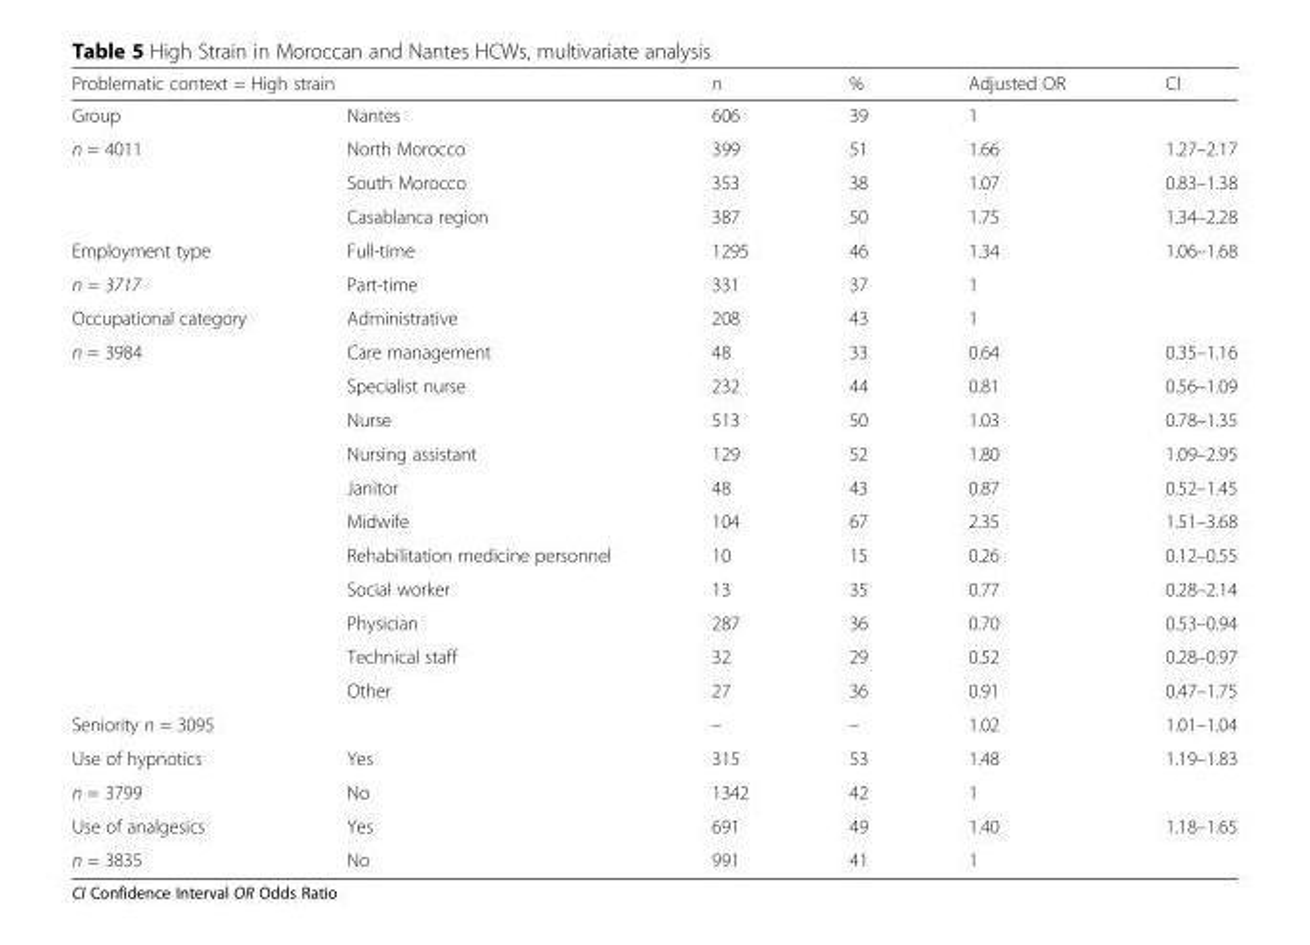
<table><thead><tr><td colspan="2">Problematic context = High strain</td><td rowspan="2">n 606</td><td rowspan="2">% 39</td><td rowspan="2">Adjusted OR 1</td><td rowspan="2">CI</td></tr><tr><td>Group</td><td>Nantes</td></tr></thead><tbody><tr><td rowspan="3">n = 4011</td><td>North Morocco</td><td>399</td><td>51</td><td>1.66</td><td>1.27–2.17</td></tr><tr><td>South Morocco</td><td>353</td><td>38</td><td>1.07</td><td>0.83–1.38</td></tr><tr><td>Casablanca region</td><td>387</td><td>50</td><td>1.75</td><td>1.34–2.28</td></tr><tr><td>Employment type</td><td>Full-time</td><td>1295</td><td>46</td><td>1.34</td><td>1.06–1.68</td></tr><tr><td>n = 3717</td><td>Part-time</td><td>331</td><td>37</td><td>1</td><td></td></tr><tr><td>Occupational category</td><td>Administrative</td><td>208</td><td>43</td><td>1</td><td></td></tr><tr><td rowspan="11">n = 3984</td><td>Care management</td><td>48</td><td>33</td><td>0.64</td><td>0.35–1.16</td></tr><tr><td>Specialist nurse</td><td>232</td><td>44</td><td>0.81</td><td>0.56–1.09</td></tr><tr><td>Nurse</td><td>513</td><td>50</td><td>1.03</td><td>0.78–1.35</td></tr><tr><td>Nursing assistant</td><td>129</td><td>52</td><td>1.80</td><td>1.09–2.95</td></tr><tr><td>Janitor</td><td>48</td><td>43</td><td>0.87</td><td>0.52–1.45</td></tr><tr><td>Midwife</td><td>104</td><td>67</td><td>2.35</td><td>1.51–3.68</td></tr><tr><td>Rehabilitation medicine personnel</td><td>10</td><td>15</td><td>0.26</td><td>0.12–0.55</td></tr><tr><td>Social worker</td><td>13</td><td>35</td><td>0.77</td><td>0.28–2.14</td></tr><tr><td>Physician</td><td>287</td><td>36</td><td>0.70</td><td>0.53–0.94</td></tr><tr><td>Technical staff</td><td>32</td><td>29</td><td>0.52</td><td>0.28–0.97</td></tr><tr><td>Other</td><td>27</td><td>36</td><td>0.91</td><td>0.47–1.75</td></tr><tr><td>Seniority n = 3095</td><td></td><td>–</td><td>–</td><td>1.02</td><td>1.01–1.04</td></tr><tr><td>Use of hypnotics</td><td>Yes</td><td>315</td><td>53</td><td>1.48</td><td>1.19–1.83</td></tr><tr><td>n = 3799</td><td>No</td><td>1342</td><td>42</td><td>1</td><td></td></tr><tr><td>Use of analgesics</td><td>Yes</td><td>691</td><td>49</td><td>1.40</td><td>1.18–1.65</td></tr><tr><td>n = 3835</td><td>No</td><td>991</td><td>41</td><td>1</td><td></td></tr></tbody></table>